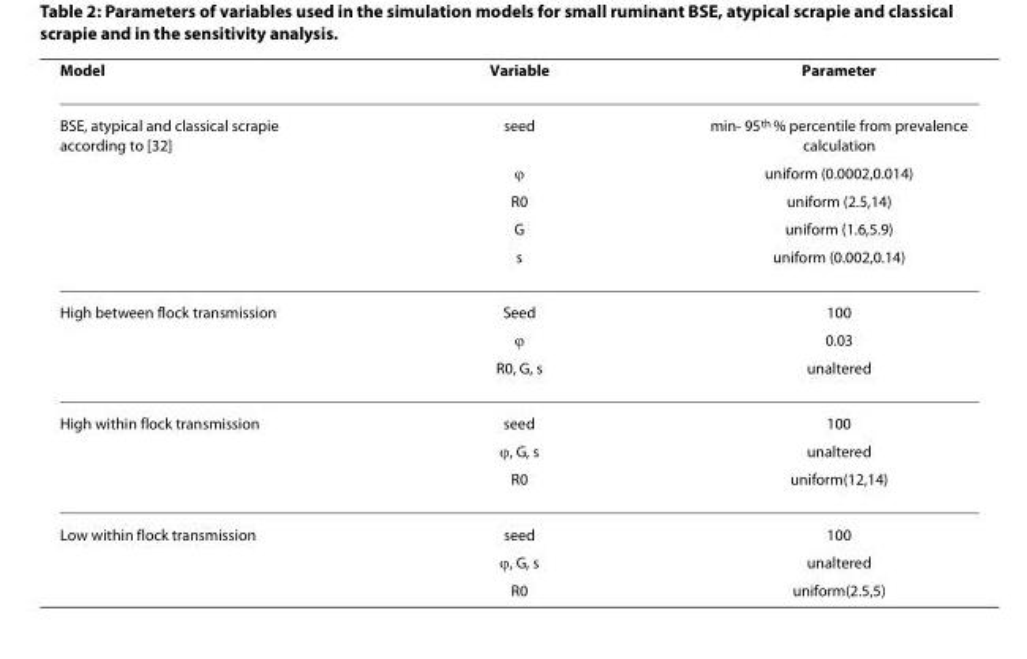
<table><thead><tr><td>Model</td><td>Variable</td><td>Parameter</td></tr></thead><tbody><tr><td rowspan="5">BSE, atypical and classical scrapie according to [32]</td><td>seed</td><td>min- 95<sup>th</sup> % percentile from prevalence calculation</td></tr><tr><td>ϕ</td><td>uniform (0.0002,0.014)</td></tr><tr><td>R0</td><td>uniform (2.5,14)</td></tr><tr><td>G</td><td>uniform (1.6,5.9)</td></tr><tr><td>s</td><td>uniform (0.002,0.14)</td></tr><tr><td rowspan="3">High between flock transmission</td><td>Seed</td><td>100</td></tr><tr><td>ϕ</td><td>0.03</td></tr><tr><td>R0, G, s</td><td>unaltered</td></tr><tr><td rowspan="3">High within flock transmission</td><td>seed</td><td>100</td></tr><tr><td>ϕ, G, s</td><td>unaltered</td></tr><tr><td>R0</td><td>uniform(12,14)</td></tr><tr><td rowspan="3">Low within flock transmission</td><td>seed</td><td>100</td></tr><tr><td>ϕ, G, s</td><td>unaltered</td></tr><tr><td>R0</td><td>uniform(2.5,5)</td></tr></tbody></table>